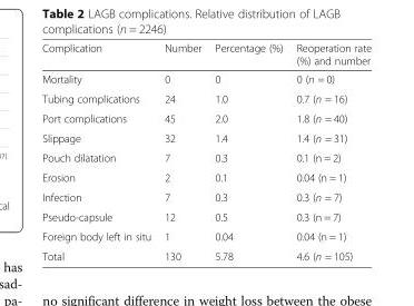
<table><thead><tr><td>Complication</td><td>Number</td><td>Percentage (%)</td><td>Reoperation rate (%) and number</td></tr></thead><tbody><tr><td>Mortality</td><td>0</td><td>0</td><td>0 (n = 0)</td></tr><tr><td>Tubing complications</td><td>24</td><td>1.0</td><td>0.7 (n = 16)</td></tr><tr><td>Port complications</td><td>45</td><td>2.0</td><td>1.8 (n = 40)</td></tr><tr><td>Slippage</td><td>32</td><td>1.4</td><td>1.4 (n = 31)</td></tr><tr><td>Pouch dilatation</td><td>7</td><td>0.3</td><td>0.1 (n = 2)</td></tr><tr><td>Erosion</td><td>2</td><td>0.1</td><td>0.04 (n = 1)</td></tr><tr><td>Infection</td><td>7</td><td>0.3</td><td>0.3 (n = 7)</td></tr><tr><td>Pseudo-capsule</td><td>12</td><td>0.5</td><td>0.3 (n = 7)</td></tr><tr><td>Foreign body left in situ</td><td>1</td><td>0.04</td><td>0.04 (n = 1)</td></tr><tr><td>Total</td><td>130</td><td>5.78</td><td>4.6 (n = 105)</td></tr></tbody></table>